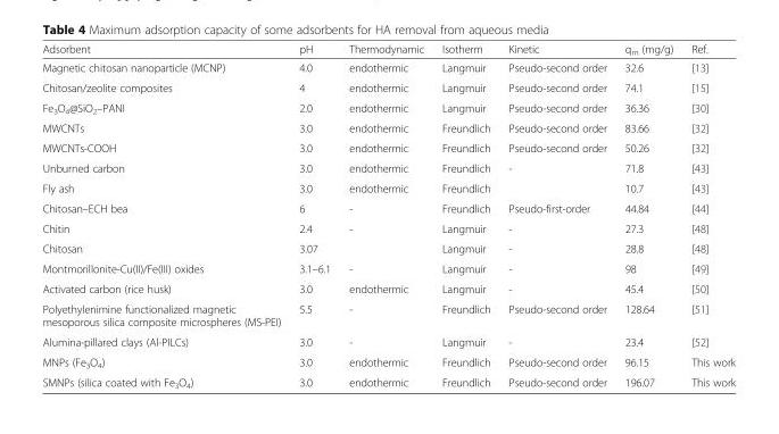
<table><thead><tr><td>Adsorbent</td><td>pH</td><td>Thermodynamic</td><td>Isotherm</td><td>Kinetic</td><td>q<sub>m</sub> (mg/g)</td><td>Ref.</td></tr></thead><tbody><tr><td>Magnetic chitosan nanoparticle (MCNP)</td><td>4.0</td><td>endothermic</td><td>Langmuir</td><td>Pseudo-second order</td><td>32.6</td><td>[13]</td></tr><tr><td>Chitosan/zeolite composites</td><td>4</td><td>endothermic</td><td>Langmuir</td><td>Pseudo-second order</td><td>74.1</td><td>[15]</td></tr><tr><td>Fe<sub>3</sub>O<sub>4</sub>@SiO<sub>2</sub>–PANI</td><td>2.0</td><td>endothermic</td><td>Langmuir</td><td>Pseudo-second order</td><td>36.36</td><td>[30]</td></tr><tr><td>MWCNTs</td><td>3.0</td><td>endothermic</td><td>Freundlich</td><td>Pseudo-second order</td><td>83.66</td><td>[32]</td></tr><tr><td>MWCNTs-COOH</td><td>3.0</td><td>endothermic</td><td>Freundlich</td><td>Pseudo-second order</td><td>50.26</td><td>[32]</td></tr><tr><td>Unburned carbon</td><td>3.0</td><td>endothermic</td><td>Freundlich</td><td>-</td><td>71.8</td><td>[43]</td></tr><tr><td>Fly ash</td><td>3.0</td><td>endothermic</td><td>Freundlich</td><td></td><td>10.7</td><td>[43]</td></tr><tr><td>Chitosan–ECH bea</td><td>6</td><td>-</td><td>Freundlich</td><td>Pseudo-first-order</td><td>44.84</td><td>[44]</td></tr><tr><td>Chitin</td><td>2.4</td><td>-</td><td>Langmuir</td><td>-</td><td>27.3</td><td>[48]</td></tr><tr><td>Chitosan</td><td>3.07</td><td></td><td>Langmuir</td><td>-</td><td>28.8</td><td>[48]</td></tr><tr><td>Montmorillonite-Cu(II)/Fe(III) oxides</td><td>3.1–6.1</td><td>-</td><td>Langmuir</td><td>-</td><td>98</td><td>[49]</td></tr><tr><td>Activated carbon (rice husk)</td><td>3.0</td><td>endothermic</td><td>Langmuir</td><td>-</td><td>45.4</td><td>[50]</td></tr><tr><td>Polyethylenimine functionalized magnetic mesoporous silica composite microspheres (MS-PEI)</td><td>5.5</td><td>-</td><td>Freundlich</td><td>Pseudo-second order</td><td>128.64</td><td>[51]</td></tr><tr><td>Alumina-pillared clays (Al-PILCs)</td><td>3.0</td><td>-</td><td>Langmuir</td><td>-</td><td>23.4</td><td>[52]</td></tr><tr><td>MNPs (Fe<sub>3</sub>O<sub>4</sub>)</td><td>3.0</td><td>endothermic</td><td>Freundlich</td><td>Pseudo-second order</td><td>96.15</td><td>This work</td></tr><tr><td>SMNPs (silica coated with Fe<sub>3</sub>O<sub>4</sub>)</td><td>3.0</td><td>endothermic</td><td>Freundlich</td><td>Pseudo-second order</td><td>196.07</td><td>This work</td></tr></tbody></table>